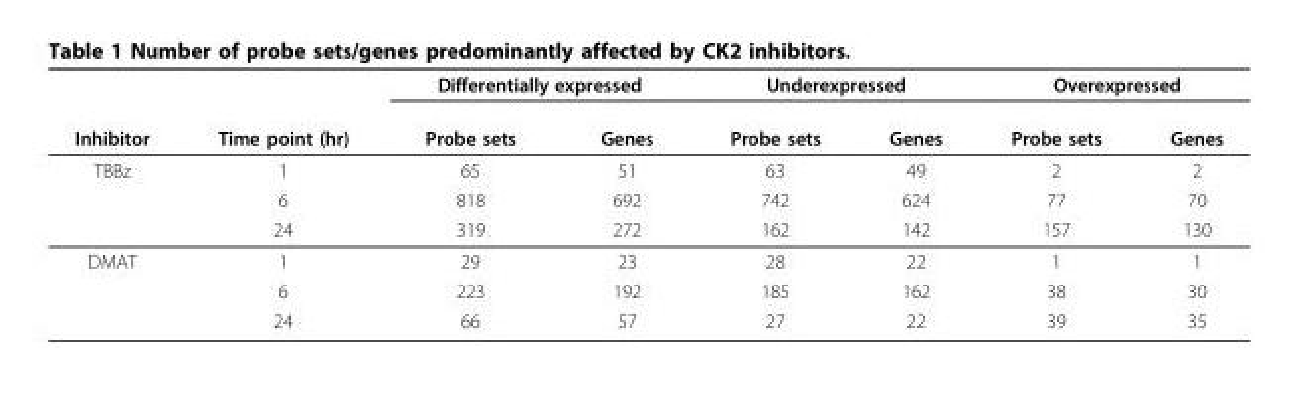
<table><thead><tr><td rowspan="2">Inhibitor</td><td rowspan="2">Time point (hr)</td><td colspan="2">Differentially expressed</td><td colspan="2">Underexpressed</td><td colspan="2">Overexpressed</td></tr><tr><td>Probe sets</td><td>Genes</td><td>Probe sets</td><td>Genes</td><td>Probe sets</td><td>Genes</td></tr></thead><tbody><tr><td rowspan="3">TBBz</td><td>1</td><td>65</td><td>51</td><td>63</td><td>49</td><td>2</td><td>2</td></tr><tr><td>6</td><td>818</td><td>692</td><td>742</td><td>624</td><td>77</td><td>70</td></tr><tr><td>24</td><td>319</td><td>272</td><td>162</td><td>142</td><td>157</td><td>130</td></tr><tr><td rowspan="3">DMAT</td><td>1</td><td>29</td><td>23</td><td>28</td><td>22</td><td>1</td><td>1</td></tr><tr><td>6</td><td>223</td><td>192</td><td>185</td><td>162</td><td>38</td><td>30</td></tr><tr><td>24</td><td>66</td><td>57</td><td>27</td><td>22</td><td>39</td><td>35</td></tr></tbody></table>